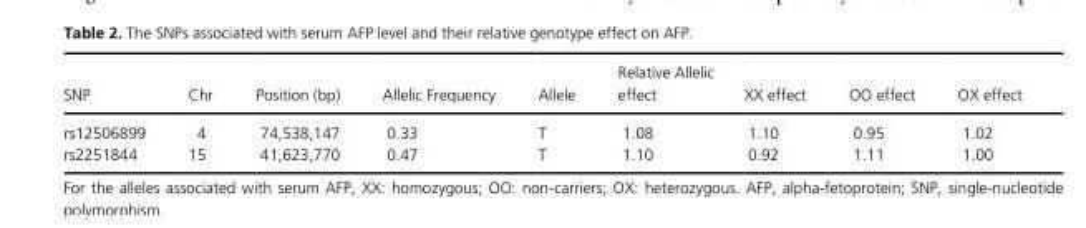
<table><thead><tr><td>SNP</td><td>Chr</td><td>Position (bp)</td><td>Allelic Frequency</td><td>Allele</td><td>Relative Allelic effect</td><td>XX effect</td><td>OO effect</td><td>OX effect</td></tr></thead><tbody><tr><td>rs12506899</td><td>4</td><td>74,538,147</td><td>0.33</td><td>T</td><td>1.08</td><td>1.10</td><td>0.95</td><td>1.02</td></tr><tr><td>rs2251844</td><td>15</td><td>41,623,770</td><td>0.47</td><td>T</td><td>1.10</td><td>0.92</td><td>1.11</td><td>1.00</td></tr></tbody></table>